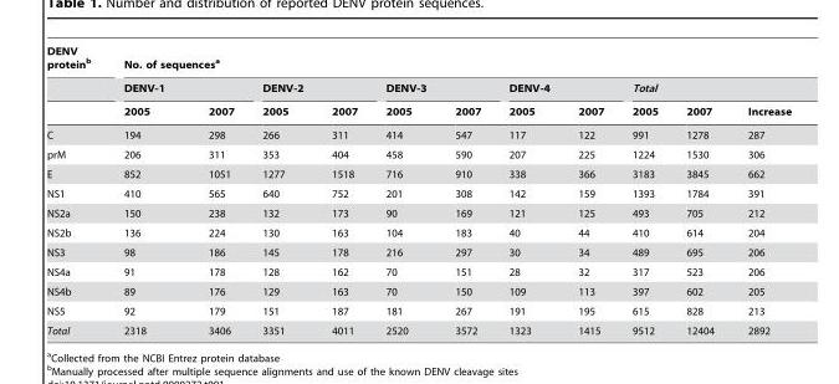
<table><thead><tr><td rowspan="3">DENV protein<sup>b</sup></td><td colspan="11">No. of sequences<sup>a</sup></td></tr><tr><td colspan="2">DENV-1</td><td colspan="2">DENV-2</td><td colspan="2">DENV-3</td><td colspan="2">DENV-4</td><td colspan="3">Total</td></tr><tr><td>2005</td><td>2007</td><td>2005</td><td>2007</td><td>2005</td><td>2007</td><td>2005</td><td>2007</td><td>2005</td><td>2007</td><td>Increase</td></tr></thead><tbody><tr><td>C</td><td>194</td><td>298</td><td>266</td><td>311</td><td>414</td><td>547</td><td>117</td><td>122</td><td>991</td><td>1278</td><td>287</td></tr><tr><td>prM</td><td>206</td><td>311</td><td>353</td><td>404</td><td>458</td><td>590</td><td>207</td><td>225</td><td>1224</td><td>1530</td><td>306</td></tr><tr><td>E</td><td>852</td><td>1051</td><td>1277</td><td>1518</td><td>716</td><td>910</td><td>338</td><td>366</td><td>3183</td><td>3845</td><td>662</td></tr><tr><td>NS1</td><td>410</td><td>565</td><td>640</td><td>752</td><td>201</td><td>308</td><td>142</td><td>159</td><td>1393</td><td>1784</td><td>391</td></tr><tr><td>NS2a</td><td>150</td><td>238</td><td>132</td><td>173</td><td>90</td><td>169</td><td>121</td><td>125</td><td>493</td><td>705</td><td>212</td></tr><tr><td>NS2b</td><td>136</td><td>224</td><td>130</td><td>163</td><td>104</td><td>183</td><td>40</td><td>44</td><td>410</td><td>614</td><td>204</td></tr><tr><td>NS3</td><td>98</td><td>186</td><td>145</td><td>178</td><td>216</td><td>297</td><td>30</td><td>34</td><td>489</td><td>695</td><td>206</td></tr><tr><td>NS4a</td><td>91</td><td>178</td><td>128</td><td>162</td><td>70</td><td>151</td><td>28</td><td>32</td><td>317</td><td>523</td><td>206</td></tr><tr><td>NS4b</td><td>89</td><td>176</td><td>129</td><td>163</td><td>70</td><td>150</td><td>109</td><td>113</td><td>397</td><td>602</td><td>205</td></tr><tr><td>NS5</td><td>92</td><td>179</td><td>151</td><td>187</td><td>181</td><td>267</td><td>191</td><td>195</td><td>615</td><td>828</td><td>213</td></tr><tr><td>Total</td><td>2318</td><td>3406</td><td>3351</td><td>4011</td><td>2520</td><td>3572</td><td>1323</td><td>1415</td><td>9512</td><td>12404</td><td>2892</td></tr></tbody></table>